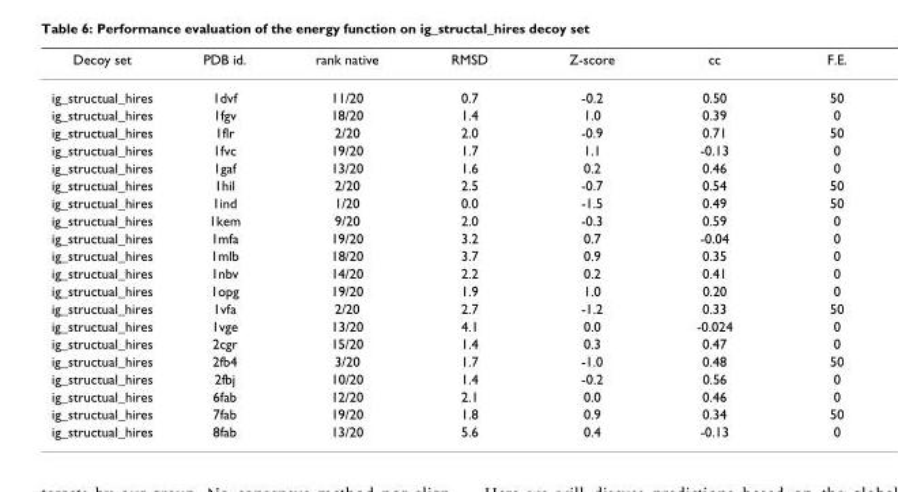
<table><thead><tr><td>Decoy set</td><td>PDB id.</td><td>rank native</td><td>RMSD</td><td>Z-score</td><td>cc</td><td>F.E.</td></tr></thead><tbody><tr><td>ig_structual_hires</td><td>1dvf</td><td>11/20</td><td>0.7</td><td>-0.2</td><td>0.50</td><td>50</td></tr><tr><td>ig_structual_hires</td><td>1fgv</td><td>18/20</td><td>1.4</td><td>1.0</td><td>0.39</td><td>0</td></tr><tr><td>ig_structual_hires</td><td>1flr</td><td>2/20</td><td>2.0</td><td>-0.9</td><td>0.71</td><td>50</td></tr><tr><td>ig_structual_hires</td><td>1fvc</td><td>19/20</td><td>1.7</td><td>1.1</td><td>-0.13</td><td>0</td></tr><tr><td>ig_structual_hires</td><td>1gaf</td><td>13/20</td><td>1.6</td><td>0.2</td><td>0.46</td><td>0</td></tr><tr><td>ig_structual_hires</td><td>1hil</td><td>2/20</td><td>2.5</td><td>-0.7</td><td>0.54</td><td>50</td></tr><tr><td>ig_structual_hires</td><td>1ind</td><td>1/20</td><td>0.0</td><td>-1.5</td><td>0.49</td><td>50</td></tr><tr><td>ig_structual_hires</td><td>1kem</td><td>9/20</td><td>2.0</td><td>-0.3</td><td>0.59</td><td>0</td></tr><tr><td>ig_structual_hires</td><td>1mfa</td><td>19/20</td><td>3.2</td><td>0.7</td><td>-0.04</td><td>0</td></tr><tr><td>ig_structual_hires</td><td>1mlb</td><td>18/20</td><td>3.7</td><td>0.9</td><td>0.35</td><td>0</td></tr><tr><td>ig_structual_hires</td><td>1nbv</td><td>14/20</td><td>2.2</td><td>0.2</td><td>0.41</td><td>0</td></tr><tr><td>ig_structual_hires</td><td>1opg</td><td>19/20</td><td>1.9</td><td>1.0</td><td>0.20</td><td>0</td></tr><tr><td>ig_structual_hires</td><td>1vfa</td><td>2/20</td><td>2.7</td><td>-1.2</td><td>0.33</td><td>50</td></tr><tr><td>ig_structual_hires</td><td>1vge</td><td>13/20</td><td>4.1</td><td>0.0</td><td>-0.024</td><td>0</td></tr><tr><td>ig_structual_hires</td><td>2cgr</td><td>15/20</td><td>1.4</td><td>0.3</td><td>0.47</td><td>0</td></tr><tr><td>ig_structual_hires</td><td>2fb4</td><td>3/20</td><td>1.7</td><td>-1.0</td><td>0.48</td><td>50</td></tr><tr><td>ig_structual_hires</td><td>2fbj</td><td>10/20</td><td>1.4</td><td>-0.2</td><td>0.56</td><td>0</td></tr><tr><td>ig_structual_hires</td><td>6fab</td><td>12/20</td><td>2.1</td><td>0.0</td><td>0.46</td><td>0</td></tr><tr><td>ig_structual_hires</td><td>7fab</td><td>19/20</td><td>1.8</td><td>0.9</td><td>0.34</td><td>50</td></tr><tr><td>ig_structual_hires</td><td>8fab</td><td>13/20</td><td>5.6</td><td>0.4</td><td>-0.13</td><td>0</td></tr></tbody></table>